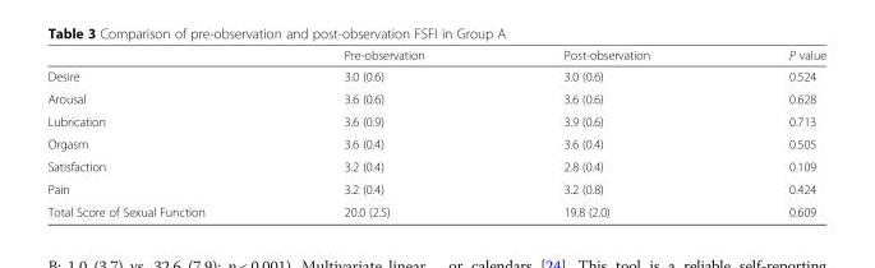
<table><thead><tr><td></td><td>Pre-observation</td><td>Post-observation</td><td>P value</td></tr></thead><tbody><tr><td>Desire</td><td>3.0 (0.6)</td><td>3.0 (0.6)</td><td>0.524</td></tr><tr><td>Arousal</td><td>3.6 (0.6)</td><td>3.6 (0.6)</td><td>0.628</td></tr><tr><td>Lubrication</td><td>3.6 (0.9)</td><td>3.9 (0.6)</td><td>0.713</td></tr><tr><td>Orgasm</td><td>3.6 (0.4)</td><td>3.6 (0.4)</td><td>0.505</td></tr><tr><td>Satisfaction</td><td>3.2 (0.4)</td><td>2.8 (0.4)</td><td>0.109</td></tr><tr><td>Pain</td><td>3.2 (0.4)</td><td>3.2 (0.8)</td><td>0.424</td></tr><tr><td>Total Score of Sexual Function</td><td>20.0 (2.5)</td><td>19.8 (2.0)</td><td>0.609</td></tr></tbody></table>